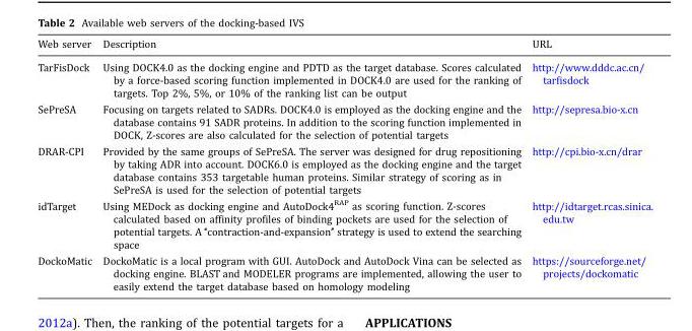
<table><thead><tr><td>Web server</td><td>Description</td><td>URL</td></tr></thead><tbody><tr><td>TarFisDock</td><td>Using DOCK4.0 as the docking engine and PDTD as the target database. Scores calculated by a force-based scoring function implemented in DOCK4.0 are used for the ranking of targets. Top 2%, 5%, or 10% of the ranking list can be output</td><td>http://www.dddc.ac.cn/ tarfisdock</td></tr><tr><td>SePreSA</td><td>Focusing on targets related to SADRs. DOCK4.0 is employed as the docking engine and the database contains 91 SADR proteins. In addition to the scoring function implemented in DOCK, Z-scores are also calculated for the selection of potential targets</td><td>http://sepresa.bio-x.cn</td></tr><tr><td>DRAR-CPI</td><td>Provided by the same groups of SePreSA. The server was designed for drug repositioning by taking ADR into account. DOCK6.0 is employed as the docking engine and the target database contains 353 targetable human proteins. Similar strategy of scoring as in SePreSA is used for the selection of potential targets</td><td>http://cpi.bio-x.cn/drar</td></tr><tr><td>idTarget</td><td>Using MEDock as docking engine and AutoDock4RAP as scoring function. Z-scores calculated based on affinity profiles of binding pockets are used for the selection of potential targets. A ‘‘contraction-and-expansion’’ strategy is used to extend the searching space</td><td>http://idtarget.rcas.sinica. edu.tw</td></tr><tr><td>DockoMatic</td><td>DockoMatic is a local program with GUI. AutoDock and AutoDock Vina can be selected as docking engine. BLAST and MODELER programs are implemented, allowing the user to easily extend the target database based on homology modeling</td><td>https://sourceforge.net/ projects/dockomatic</td></tr></tbody></table>